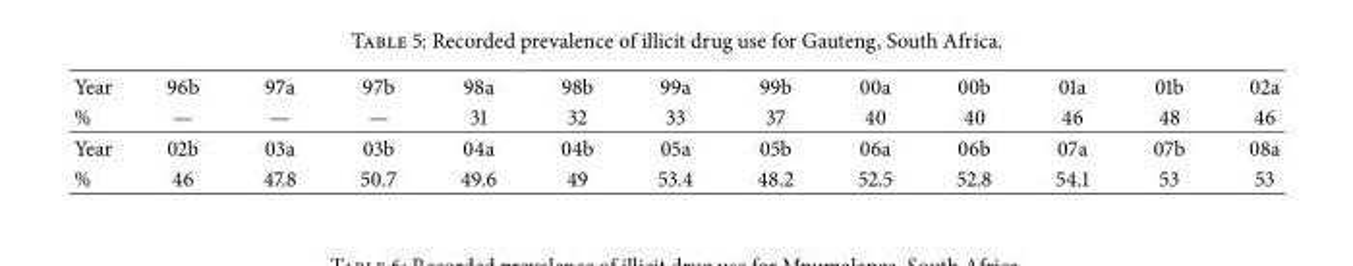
<table><tbody><tr><td>Year</td><td>96b</td><td>97a</td><td>97b</td><td>98a</td><td>98b</td><td>99a</td><td>99b</td><td>00a</td><td>00b</td><td>01a</td><td>01b</td><td>02a</td></tr><tr><td>%</td><td>—</td><td>—</td><td>—</td><td>31</td><td>32</td><td>33</td><td>37</td><td>40</td><td>40</td><td>46</td><td>48</td><td>46</td></tr><tr><td>Year</td><td>02b</td><td>03a</td><td>03b</td><td>04a</td><td>04b</td><td>05a</td><td>05b</td><td>06a</td><td>06b</td><td>07a</td><td>07b</td><td>08a</td></tr><tr><td>%</td><td>46</td><td>47.8</td><td>50.7</td><td>49.6</td><td>49</td><td>53.4</td><td>48.2</td><td>52.5</td><td>52.8</td><td>54.1</td><td>53</td><td>53</td></tr></tbody></table>